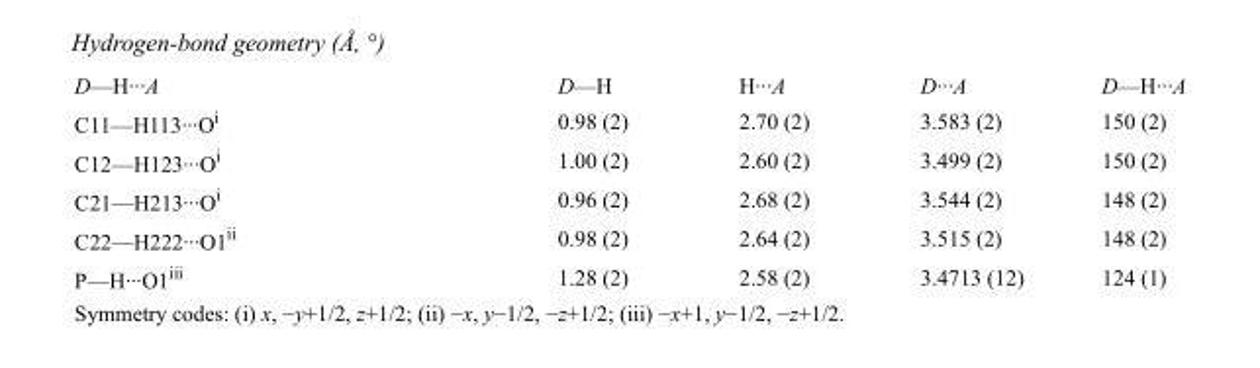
<table><tbody><tr><td>D—H···A</td><td>D—H</td><td>H···A</td><td>D···A</td><td>D—H···A</td></tr><tr><td>C11—H113···O<sup>i</sup></td><td>0.98 (2)</td><td>2.70 (2)</td><td>3.583 (2)</td><td>150 (2)</td></tr><tr><td>C12—H123···O<sup>i</sup></td><td>1.00 (2)</td><td>2.60 (2)</td><td>3.499 (2)</td><td>150 (2)</td></tr><tr><td>C21—H213···O<sup>i</sup></td><td>0.96 (2)</td><td>2.68 (2)</td><td>3.544 (2)</td><td>148 (2)</td></tr><tr><td>C22—H222···O1<sup>ii</sup></td><td>0.98 (2)</td><td>2.64 (2)</td><td>3.515 (2)</td><td>148 (2)</td></tr><tr><td>P—H···O1<sup>iii</sup></td><td>1.28 (2)</td><td>2.58 (2)</td><td>3.4713 (12)</td><td>124 (1)</td></tr></tbody></table>